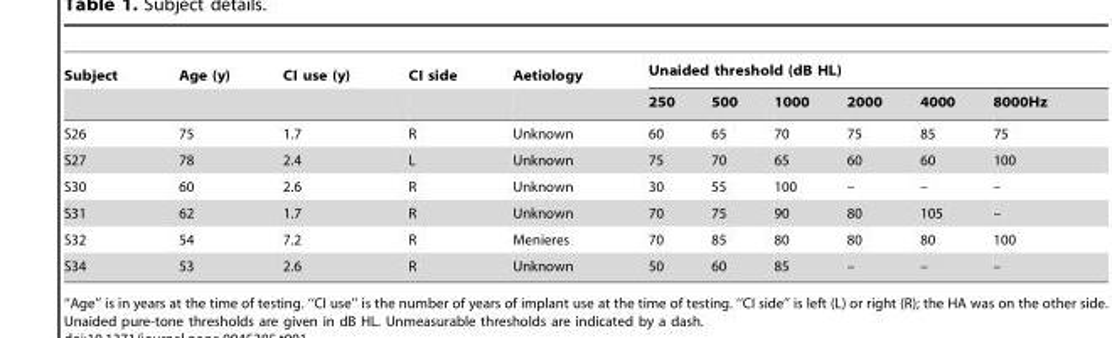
<table><thead><tr><td rowspan="2">Subject</td><td rowspan="2">Age (y)</td><td rowspan="2">CI use (y)</td><td rowspan="2">CI side</td><td rowspan="2">Aetiology</td><td colspan="6">Unaided threshold (dB HL)</td></tr><tr><td>250</td><td>500</td><td>1000</td><td>2000</td><td>4000</td><td>8000Hz</td></tr></thead><tbody><tr><td>S26</td><td>75</td><td>1.7</td><td>R</td><td>Unknown</td><td>60</td><td>65</td><td>70</td><td>75</td><td>85</td><td>75</td></tr><tr><td>S27</td><td>78</td><td>2.4</td><td>L</td><td>Unknown</td><td>75</td><td>70</td><td>65</td><td>60</td><td>60</td><td>100</td></tr><tr><td>S30</td><td>60</td><td>2.6</td><td>R</td><td>Unknown</td><td>30</td><td>55</td><td>100</td><td>–</td><td>–</td><td>–</td></tr><tr><td>S31</td><td>62</td><td>1.7</td><td>R</td><td>Unknown</td><td>70</td><td>75</td><td>90</td><td>80</td><td>105</td><td>–</td></tr><tr><td>S32</td><td>54</td><td>7.2</td><td>R</td><td>Menieres</td><td>70</td><td>85</td><td>80</td><td>80</td><td>80</td><td>100</td></tr><tr><td>S34</td><td>53</td><td>2.6</td><td>R</td><td>Unknown</td><td>50</td><td>60</td><td>85</td><td>–</td><td>–</td><td>–</td></tr></tbody></table>